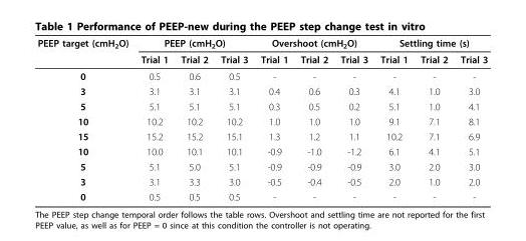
<table><thead><tr><td rowspan="2">PEEP target (cmH<sub>2</sub>O)</td><td colspan="3">PEEP (cmH<sub>2</sub>O)</td><td colspan="3">Overshoot (cmH<sub>2</sub>O)</td><td colspan="3">Settling time (s)</td></tr><tr><td>Trial 1</td><td>Trial 2</td><td>Trial 3</td><td>Trial 1</td><td>Trial 2</td><td>Trial 3</td><td>Trial 1</td><td>Trial 2</td><td>Trial 3</td></tr></thead><tbody><tr><td>0</td><td>0.5</td><td>0.6</td><td>0.5</td><td>-</td><td>-</td><td>-</td><td>-</td><td>-</td><td>-</td></tr><tr><td>3</td><td>3.1</td><td>3.1</td><td>3.1</td><td>0.4</td><td>0.6</td><td>0.3</td><td>4.1</td><td>1.0</td><td>3.0</td></tr><tr><td>5</td><td>5.1</td><td>5.1</td><td>5.1</td><td>0.3</td><td>0.5</td><td>0.2</td><td>5.1</td><td>1.0</td><td>4.1</td></tr><tr><td>10</td><td>10.2</td><td>10.2</td><td>10.2</td><td>1.0</td><td>1.0</td><td>1.0</td><td>9.1</td><td>7.1</td><td>8.1</td></tr><tr><td>15</td><td>15.2</td><td>15.2</td><td>15.1</td><td>1.3</td><td>1.2</td><td>1.1</td><td>10.2</td><td>7.1</td><td>6.9</td></tr><tr><td>10</td><td>10.0</td><td>10.1</td><td>10.1</td><td>-0.9</td><td>-1.0</td><td>-1.2</td><td>6.1</td><td>4.1</td><td>5.1</td></tr><tr><td>5</td><td>5.1</td><td>5.0</td><td>5.1</td><td>-0.9</td><td>-0.9</td><td>-0.9</td><td>3.0</td><td>2.0</td><td>3.0</td></tr><tr><td>3</td><td>3.1</td><td>3.3</td><td>3.0</td><td>-0.5</td><td>-0.4</td><td>-0.5</td><td>2.0</td><td>1.0</td><td>2.0</td></tr><tr><td>0</td><td>0.5</td><td>0.5</td><td>0.5</td><td>-</td><td>-</td><td>-</td><td>-</td><td>-</td><td>-</td></tr></tbody></table>